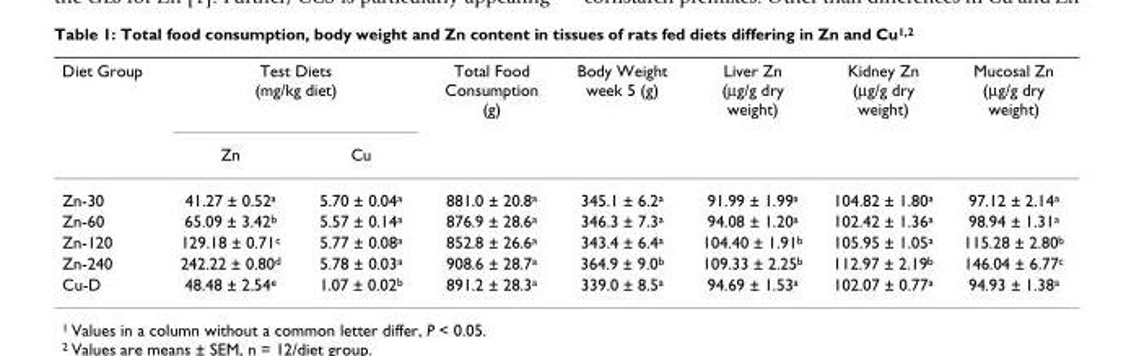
<table><thead><tr><td rowspan="2">Diet Group</td><td colspan="2">Test Diets (mg/kg diet)</td><td rowspan="2">Total Food Consumption (g)</td><td rowspan="2">Body Weight week 5 (g)</td><td rowspan="2">Liver Zn (µg/g dry weight)</td><td rowspan="2">Kidney Zn (µg/g dry weight)</td><td rowspan="2">Mucosal Zn (µg/g dry weight)</td></tr><tr><td>Zn</td><td>Cu</td></tr></thead><tbody><tr><td>Zn-30</td><td>41.27 ± 0.52<sup>a</sup></td><td>5.70 ± 0.04<sup>a</sup></td><td>881.0 ± 20.8<sup>a</sup></td><td>345.1 ± 6.2<sup>a</sup></td><td>91.99 ± 1.99<sup>a</sup></td><td>104.82 ± 1.80<sup>a</sup></td><td>97.12 ± 2.14<sup>a</sup></td></tr><tr><td>Zn-60</td><td>65.09 ± 3.42<sup>b</sup></td><td>5.57 ± 0.14<sup>a</sup></td><td>876.9 ± 28.6<sup>a</sup></td><td>346.3 ± 7.3<sup>a</sup></td><td>94.08 ± 1.20<sup>a</sup></td><td>102.42 ± 1.36<sup>a</sup></td><td>98.94 ± 1.31<sup>a</sup></td></tr><tr><td>Zn-120</td><td>129.18 ± 0.71<sup>c</sup></td><td>5.77 ± 0.08<sup>a</sup></td><td>852.8 ± 26.6<sup>a</sup></td><td>343.4 ± 6.4<sup>a</sup></td><td>104.40 ± 1.91<sup>b</sup></td><td>105.95 ± 1.05<sup>a</sup></td><td>115.28 ± 2.80<sup>b</sup></td></tr><tr><td>Zn-240</td><td>242.22 ± 0.80<sup>d</sup></td><td>5.78 ± 0.03<sup>a</sup></td><td>908.6 ± 28.7<sup>a</sup></td><td>364.9 ± 9.0<sup>b</sup></td><td>109.33 ± 2.25<sup>b</sup></td><td>112.97 ± 2.19<sup>b</sup></td><td>146.04 ± 6.77<sup>c</sup></td></tr><tr><td>Cu-D</td><td>48.48 ± 2.54<sup>e</sup></td><td>1.07 ± 0.02<sup>b</sup></td><td>891.2 ± 28.3<sup>a</sup></td><td>339.0 ± 8.5<sup>a</sup></td><td>94.69 ± 1.53<sup>a</sup></td><td>102.07 ± 0.77<sup>a</sup></td><td>94.93 ± 1.38<sup>a</sup></td></tr></tbody></table>